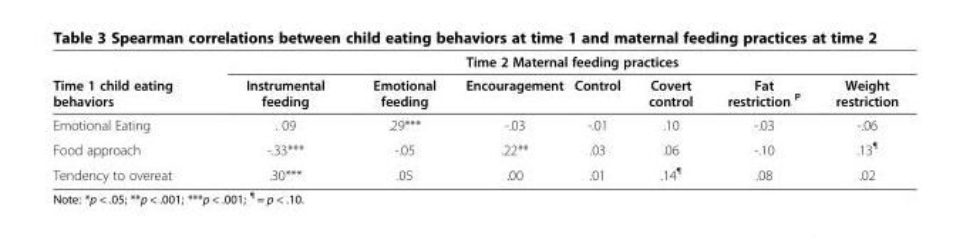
<table><thead><tr><td rowspan="2">Time 1 child eating behaviors</td><td colspan="7">Time 2 Maternal feeding practices</td></tr><tr><td>Instrumental feeding</td><td>Emotional feeding</td><td>Encouragement</td><td>Control</td><td>Covert control</td><td>Fat restriction <sup>P</sup></td><td>Weight restriction</td></tr></thead><tbody><tr><td>Emotional Eating</td><td>. 09</td><td>.29***</td><td>-.03</td><td>-.01</td><td>.10</td><td>-.03</td><td>-.06</td></tr><tr><td>Food approach</td><td>-.33***</td><td>-.05</td><td>.22**</td><td>.03</td><td>.06</td><td>-.10</td><td>.13<sup>¶</sup></td></tr><tr><td>Tendency to overeat</td><td>.30***</td><td>.05</td><td>.00</td><td>.01</td><td>.14<sup>¶</sup></td><td>.08</td><td>.02</td></tr></tbody></table>